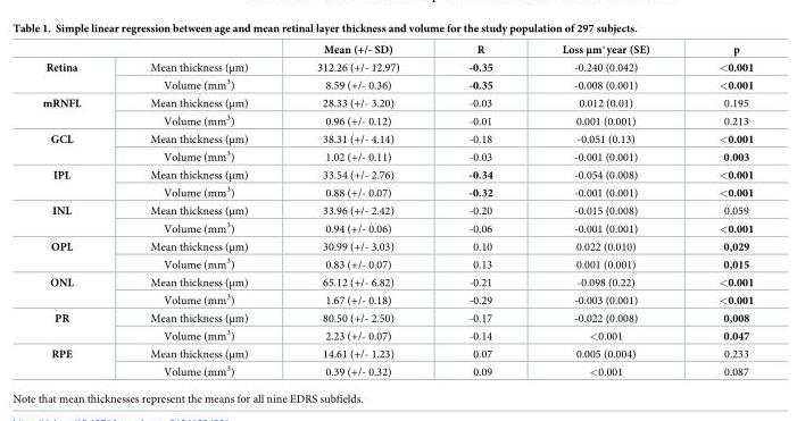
<table><thead><tr><td></td><td></td><td>Mean (+/- SD)</td><td>R</td><td>Loss μm*year (SE)</td><td>p</td></tr></thead><tbody><tr><td rowspan="2">Retina</td><td>Mean thickness (μm)</td><td>312.26 (+/- 12.97)</td><td>-0.35</td><td>-0.240 (0.042)</td><td>&lt;0.001</td></tr><tr><td>Volume (mm<sup>3</sup>)</td><td>8.59 (+/- 0.36)</td><td>-0.35</td><td>-0.008 (0.001)</td><td>&lt;0.001</td></tr><tr><td rowspan="2">mRNFL</td><td>Mean thickness (μm)</td><td>28.33 (+/- 3.20)</td><td>-0.03</td><td>0.012 (0.01)</td><td>0.195</td></tr><tr><td>Volume (mm<sup>3</sup>)</td><td>0.96 (+/- 0.12)</td><td>-0.01</td><td>0.001 (0.001)</td><td>0.213</td></tr><tr><td rowspan="2">GCL</td><td>Mean thickness (μm)</td><td>38.31 (+/- 4.14)</td><td>-0.18</td><td>-0.051 (0.13)</td><td>&lt;0.001</td></tr><tr><td>Volume (mm<sup>3</sup>)</td><td>1.02 (+/- 0.11)</td><td>-0.03</td><td>-0.001 (0.001)</td><td>0.003</td></tr><tr><td rowspan="2">IPL</td><td>Mean thickness (μm)</td><td>33.54 (+/- 2.76)</td><td>-0.34</td><td>-0.054 (0.008)</td><td>&lt;0.001</td></tr><tr><td>Volume (mm<sup>3</sup>)</td><td>0.88 (+/- 0.07)</td><td>-0.32</td><td>-0.001 (0.001)</td><td>&lt;0.001</td></tr><tr><td rowspan="2">INL</td><td>Mean thickness (μm)</td><td>33.96 (+/- 2.42)</td><td>-0.20</td><td>-0.015 (0.008)</td><td>0.059</td></tr><tr><td>Volume (mm<sup>3</sup>)</td><td>0.94 (+/- 0.06)</td><td>-0.06</td><td>-0.001 (0.001)</td><td>&lt;0.001</td></tr><tr><td rowspan="2">OPL</td><td>Mean thickness (μm)</td><td>30.99 (+/- 3.03)</td><td>0.10</td><td>0.022 (0.010)</td><td>0,029</td></tr><tr><td>Volume (mm<sup>3</sup>)</td><td>0.83 (+/- 0.07)</td><td>0.13</td><td>0.001 (0.001)</td><td>0,015</td></tr><tr><td rowspan="2">ONL</td><td>Mean thickness (μm)</td><td>65.12 (+/- 6.82)</td><td>-0.21</td><td>-0.098 (0.22)</td><td>&lt;0.001</td></tr><tr><td>Volume (mm<sup>3</sup>)</td><td>1.67 (+/- 0.18)</td><td>-0.29</td><td>-0.003 (0.001)</td><td>&lt;0.001</td></tr><tr><td rowspan="2">PR</td><td>Mean thickness (μm)</td><td>80.50 (+/- 2.50)</td><td>-0.17</td><td>-0.022 (0.008)</td><td>0,008</td></tr><tr><td>Volume (mm<sup>3</sup>)</td><td>2.23 (+/- 0.07)</td><td>-0.14</td><td>&lt;0.001</td><td>0.047</td></tr><tr><td rowspan="2">RPE</td><td>Mean thickness (μm)</td><td>14.61 (+/- 1.23)</td><td>0.07</td><td>0.005 (0.004)</td><td>0.233</td></tr><tr><td>Volume (mm<sup>3</sup>)</td><td>0.39 (+/- 0.32)</td><td>0.09</td><td>&lt;0.001</td><td>0.087</td></tr></tbody></table>